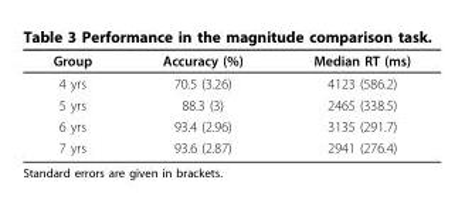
<table><thead><tr><td>Group</td><td>Accuracy (%)</td><td>Median RT (ms)</td></tr></thead><tbody><tr><td>4 yrs</td><td>70.5 (3.26)</td><td>4123 (586.2)</td></tr><tr><td>5 yrs</td><td>88.3 (3)</td><td>2465 (338.5)</td></tr><tr><td>6 yrs</td><td>93.4 (2.96)</td><td>3135 (291.7)</td></tr><tr><td>7 yrs</td><td>93.6 (2.87)</td><td>2941 (276.4)</td></tr></tbody></table>